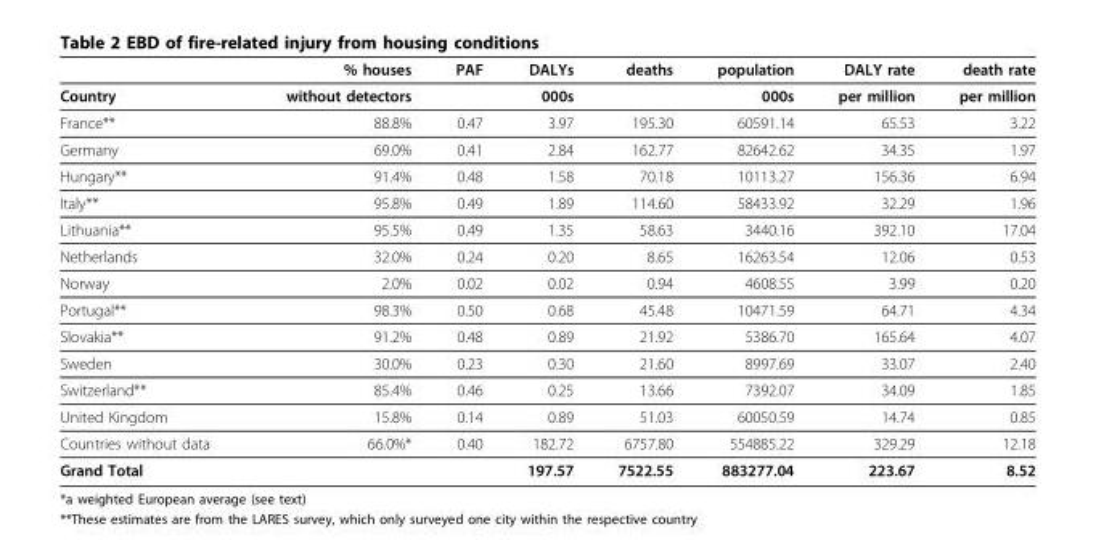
<table><thead><tr><td></td><td>% houses</td><td>PAF</td><td>DALYs</td><td>deaths</td><td>population</td><td>DALY rate</td><td>death rate</td></tr></thead><tbody><tr><td>Country</td><td>without detectors</td><td></td><td>000s</td><td></td><td>000s</td><td>per million</td><td>per million</td></tr><tr><td>France**</td><td>88.8%</td><td>0.47</td><td>3.97</td><td>195.30</td><td>60591.14</td><td>65.53</td><td>3.22</td></tr><tr><td>Germany</td><td>69.0%</td><td>0.41</td><td>2.84</td><td>162.77</td><td>82642.62</td><td>34.35</td><td>1.97</td></tr><tr><td>Hungary**</td><td>91.4%</td><td>0.48</td><td>1.58</td><td>70.18</td><td>10113.27</td><td>156.36</td><td>6.94</td></tr><tr><td>Italy**</td><td>95.8%</td><td>0.49</td><td>1.89</td><td>114.60</td><td>58433.92</td><td>32.29</td><td>1.96</td></tr><tr><td>Lithuania**</td><td>95.5%</td><td>0.49</td><td>1.35</td><td>58.63</td><td>3440.16</td><td>392.10</td><td>17.04</td></tr><tr><td>Netherlands</td><td>32.0%</td><td>0.24</td><td>0.20</td><td>8.65</td><td>16263.54</td><td>12.06</td><td>0.53</td></tr><tr><td>Norway</td><td>2.0%</td><td>0.02</td><td>0.02</td><td>0.94</td><td>4608.55</td><td>3.99</td><td>0.20</td></tr><tr><td>Portugal**</td><td>98.3%</td><td>0.50</td><td>0.68</td><td>45.48</td><td>10471.59</td><td>64.71</td><td>4.34</td></tr><tr><td>Slovakia**</td><td>91.2%</td><td>0.48</td><td>0.89</td><td>21.92</td><td>5386.70</td><td>165.64</td><td>4.07</td></tr><tr><td>Sweden</td><td>30.0%</td><td>0.23</td><td>0.30</td><td>21.60</td><td>8997.69</td><td>33.07</td><td>2.40</td></tr><tr><td>Switzerland**</td><td>85.4%</td><td>0.46</td><td>0.25</td><td>13.66</td><td>7392.07</td><td>34.09</td><td>1.85</td></tr><tr><td>United Kingdom</td><td>15.8%</td><td>0.14</td><td>0.89</td><td>51.03</td><td>60050.59</td><td>14.74</td><td>0.85</td></tr><tr><td>Countries without data</td><td>66.0%*</td><td>0.40</td><td>182.72</td><td>6757.80</td><td>554885.22</td><td>329.29</td><td>12.18</td></tr><tr><td>Grand Total</td><td></td><td></td><td>197.57</td><td>7522.55</td><td>883277.04</td><td>223.67</td><td>8.52</td></tr></tbody></table>